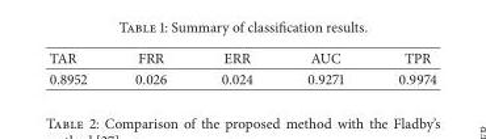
<table><thead><tr><td>TAR</td><td>FRR</td><td>ERR</td><td>AUC</td><td>TPR</td></tr></thead><tbody><tr><td>0.8952</td><td>0.026</td><td>0.024</td><td>0.9271</td><td>0.9974</td></tr></tbody></table>